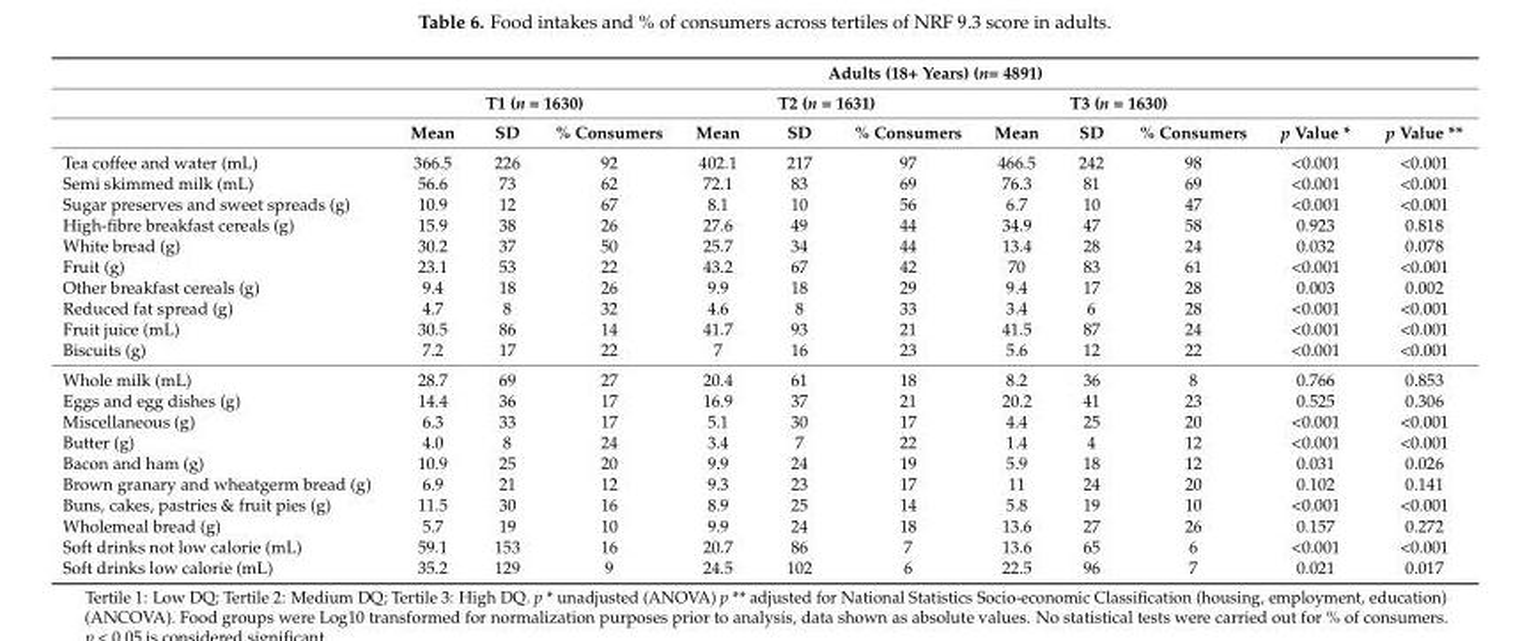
<table><thead><tr><td rowspan="3"></td><td colspan="11">Adults (18+ Years) (n= 4891)</td></tr><tr><td colspan="3">T1 (n = 1630)</td><td colspan="3">T2 (n = 1631)</td><td colspan="3">T3 (n = 1630)</td><td rowspan="2">p Value *</td><td rowspan="2">p Value **</td></tr><tr><td>Mean</td><td>SD</td><td>% Consumers</td><td>Mean</td><td>SD</td><td>% Consumers</td><td>Mean</td><td>SD</td><td>% Consumers</td></tr></thead><tbody><tr><td>Tea coffee and water (mL)</td><td>366.5</td><td>226</td><td>92</td><td>402.1</td><td>217</td><td>97</td><td>466.5</td><td>242</td><td>98</td><td>&lt;0.001</td><td>&lt;0.001</td></tr><tr><td>Semi skimmed milk (mL)</td><td>56.6</td><td>73</td><td>62</td><td>72.1</td><td>83</td><td>69</td><td>76.3</td><td>81</td><td>69</td><td>&lt;0.001</td><td>&lt;0.001</td></tr><tr><td>Sugar preserves and sweet spreads (g)</td><td>10.9</td><td>12</td><td>67</td><td>8.1</td><td>10</td><td>56</td><td>6.7</td><td>10</td><td>47</td><td>&lt;0.001</td><td>&lt;0.001</td></tr><tr><td>High-fibre breakfast cereals (g)</td><td>15.9</td><td>38</td><td>26</td><td>27.6</td><td>49</td><td>44</td><td>34.9</td><td>47</td><td>58</td><td>0.923</td><td>0.818</td></tr><tr><td>White bread (g)</td><td>30.2</td><td>37</td><td>50</td><td>25.7</td><td>34</td><td>44</td><td>13.4</td><td>28</td><td>24</td><td>0.032</td><td>0.078</td></tr><tr><td>Fruit (g)</td><td>23.1</td><td>53</td><td>22</td><td>43.2</td><td>67</td><td>42</td><td>70</td><td>83</td><td>61</td><td>&lt;0.001</td><td>&lt;0.001</td></tr><tr><td>Other breakfast cereals (g)</td><td>9.4</td><td>18</td><td>26</td><td>9.9</td><td>18</td><td>29</td><td>9.4</td><td>17</td><td>28</td><td>0.003</td><td>0.002</td></tr><tr><td>Reduced fat spread (g)</td><td>4.7</td><td>8</td><td>32</td><td>4.6</td><td>8</td><td>33</td><td>3.4</td><td>6</td><td>28</td><td>&lt;0.001</td><td>&lt;0.001</td></tr><tr><td>Fruit juice (mL)</td><td>30.5</td><td>86</td><td>14</td><td>41.7</td><td>93</td><td>21</td><td>41.5</td><td>87</td><td>24</td><td>&lt;0.001</td><td>&lt;0.001</td></tr><tr><td>Biscuits (g)</td><td>7.2</td><td>17</td><td>22</td><td>7</td><td>16</td><td>23</td><td>5.6</td><td>12</td><td>22</td><td>&lt;0.001</td><td>&lt;0.001</td></tr><tr><td>Whole milk (mL)</td><td>28.7</td><td>69</td><td>27</td><td>20.4</td><td>61</td><td>18</td><td>8.2</td><td>36</td><td>8</td><td>0.766</td><td>0.853</td></tr><tr><td>Eggs and egg dishes (g)</td><td>14.4</td><td>36</td><td>17</td><td>16.9</td><td>37</td><td>21</td><td>20.2</td><td>41</td><td>23</td><td>0.525</td><td>0.306</td></tr><tr><td>Miscellaneous (g)</td><td>6.3</td><td>33</td><td>17</td><td>5.1</td><td>30</td><td>17</td><td>4.4</td><td>25</td><td>20</td><td>&lt;0.001</td><td>&lt;0.001</td></tr><tr><td>Butter (g)</td><td>4.0</td><td>8</td><td>24</td><td>3.4</td><td>7</td><td>22</td><td>1.4</td><td>4</td><td>12</td><td>&lt;0.001</td><td>&lt;0.001</td></tr><tr><td>Bacon and ham (g)</td><td>10.9</td><td>25</td><td>20</td><td>9.9</td><td>24</td><td>19</td><td>5.9</td><td>18</td><td>12</td><td>0.031</td><td>0.026</td></tr><tr><td>Brown granary and wheatgerm bread (g)</td><td>6.9</td><td>21</td><td>12</td><td>9.3</td><td>23</td><td>17</td><td>11</td><td>24</td><td>20</td><td>0.102</td><td>0.141</td></tr><tr><td>Buns, cakes, pastries &amp; fruit pies (g)</td><td>11.5</td><td>30</td><td>16</td><td>8.9</td><td>25</td><td>14</td><td>5.8</td><td>19</td><td>10</td><td>&lt;0.001</td><td>&lt;0.001</td></tr><tr><td>Wholemeal bread (g)</td><td>5.7</td><td>19</td><td>10</td><td>9.9</td><td>24</td><td>18</td><td>13.6</td><td>27</td><td>26</td><td>0.157</td><td>0.272</td></tr><tr><td>Soft drinks not low calorie (mL)</td><td>59.1</td><td>153</td><td>16</td><td>20.7</td><td>86</td><td>7</td><td>13.6</td><td>65</td><td>6</td><td>&lt;0.001</td><td>&lt;0.001</td></tr><tr><td>Soft drinks low calorie (mL)</td><td>35.2</td><td>129</td><td>9</td><td>24.5</td><td>102</td><td>6</td><td>22.5</td><td>96</td><td>7</td><td>0.021</td><td>0.017</td></tr></tbody></table>